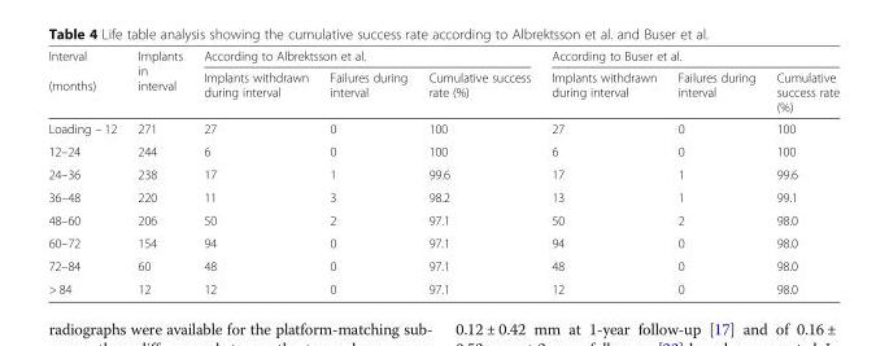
<table><thead><tr><td rowspan="2">Interval (months)</td><td rowspan="2">Implants in interval</td><td colspan="3">According to Albrektsson et al.</td><td colspan="3">According to Buser et al.</td></tr><tr><td>Implants withdrawn during interval</td><td>Failures during interval</td><td>Cumulative success rate (%)</td><td>Implants withdrawn during interval</td><td>Failures during interval</td><td>Cumulative success rate (%)</td></tr></thead><tbody><tr><td>Loading – 12</td><td>271</td><td>27</td><td>0</td><td>100</td><td>27</td><td>0</td><td>100</td></tr><tr><td>12–24</td><td>244</td><td>6</td><td>0</td><td>100</td><td>6</td><td>0</td><td>100</td></tr><tr><td>24–36</td><td>238</td><td>17</td><td>1</td><td>99.6</td><td>17</td><td>1</td><td>99.6</td></tr><tr><td>36–48</td><td>220</td><td>11</td><td>3</td><td>98.2</td><td>13</td><td>1</td><td>99.1</td></tr><tr><td>48–60</td><td>206</td><td>50</td><td>2</td><td>97.1</td><td>50</td><td>2</td><td>98.0</td></tr><tr><td>60–72</td><td>154</td><td>94</td><td>0</td><td>97.1</td><td>94</td><td>0</td><td>98.0</td></tr><tr><td>72–84</td><td>60</td><td>48</td><td>0</td><td>97.1</td><td>48</td><td>0</td><td>98.0</td></tr><tr><td>&gt; 84</td><td>12</td><td>12</td><td>0</td><td>97.1</td><td>12</td><td>0</td><td>98.0</td></tr></tbody></table>